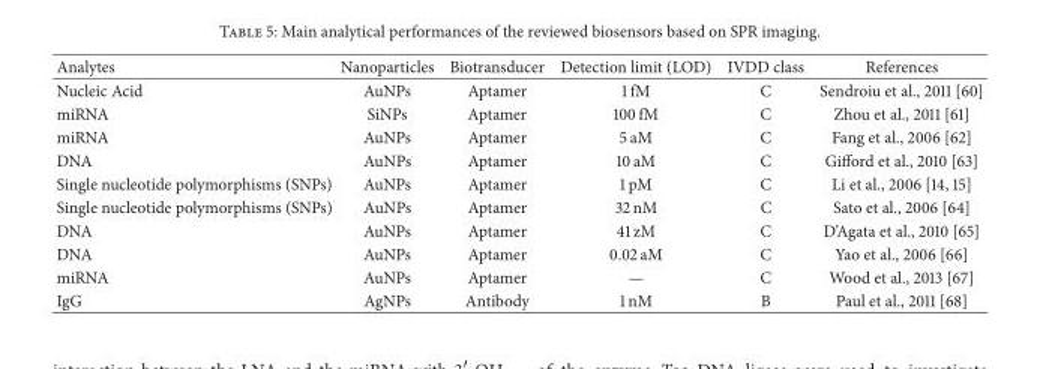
<table><thead><tr><td>Analytes</td><td>Nanoparticles</td><td>Biotransducer</td><td>Detection limit (LOD)</td><td>IVDD class</td><td>References</td></tr></thead><tbody><tr><td>Nucleic Acid</td><td>AuNPs</td><td>Aptamer</td><td>1 fM</td><td>C</td><td>Sendroiu et al., 2011 [60]</td></tr><tr><td>miRNA</td><td>SiNPs</td><td>Aptamer</td><td>100 fM</td><td>C</td><td>Zhou et al., 2011 [61]</td></tr><tr><td>miRNA</td><td>AuNPs</td><td>Aptamer</td><td>5 aM</td><td>C</td><td>Fang et al., 2006 [62]</td></tr><tr><td>DNA</td><td>AuNPs</td><td>Aptamer</td><td>10 aM</td><td>C</td><td>Gifford et al., 2010 [63]</td></tr><tr><td>Single nucleotide polymorphisms (SNPs)</td><td>AuNPs</td><td>Aptamer</td><td>1 pM</td><td>C</td><td>Li et al., 2006 [14, 15]</td></tr><tr><td>Single nucleotide polymorphisms (SNPs)</td><td>AuNPs</td><td>Aptamer</td><td>32 nM</td><td>C</td><td>Sato et al., 2006 [64]</td></tr><tr><td>DNA</td><td>AuNPs</td><td>Aptamer</td><td>41 zM</td><td>C</td><td>D’Agata et al., 2010 [65]</td></tr><tr><td>DNA</td><td>AuNPs</td><td>Aptamer</td><td>0.02 aM</td><td>C</td><td>Yao et al., 2006 [66]</td></tr><tr><td>miRNA</td><td>AuNPs</td><td>Aptamer</td><td>—</td><td>C</td><td>Wood et al., 2013 [67]</td></tr><tr><td>IgG</td><td>AgNPs</td><td>Antibody</td><td>1 nM</td><td>B</td><td>Paul et al., 2011 [68]</td></tr></tbody></table>